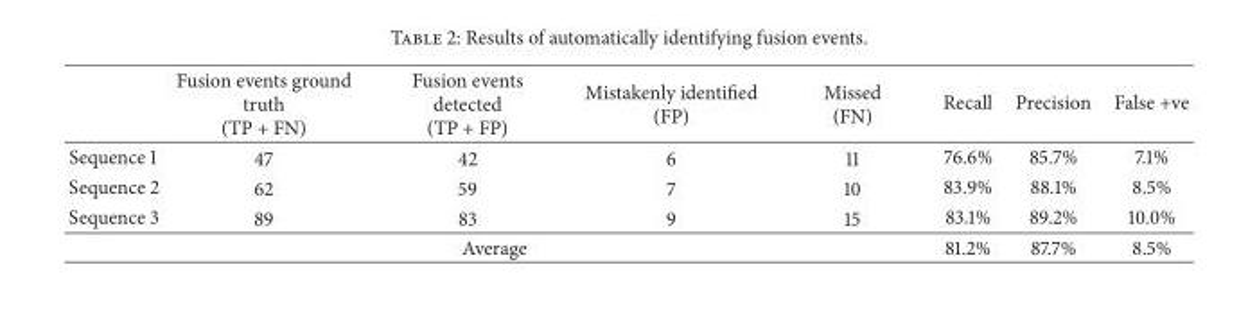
<table><thead><tr><td></td><td>Fusion events ground truth (TP + FN)</td><td>Fusion events detected (TP + FP)</td><td>Mistakenly identified (FP)</td><td>Missed (FN)</td><td>Recall</td><td>Precision</td><td>False +ve</td></tr></thead><tbody><tr><td>Sequence 1</td><td>47</td><td>42</td><td>6</td><td>11</td><td>76.6%</td><td>85.7%</td><td>7.1%</td></tr><tr><td>Sequence 2</td><td>62</td><td>59</td><td>7</td><td>10</td><td>83.9%</td><td>88.1%</td><td>8.5%</td></tr><tr><td>Sequence 3</td><td>89</td><td>83</td><td>9</td><td>15</td><td>83.1%</td><td>89.2%</td><td>10.0%</td></tr><tr><td colspan="5">Average</td><td>81.2%</td><td>87.7%</td><td>8.5%</td></tr></tbody></table>